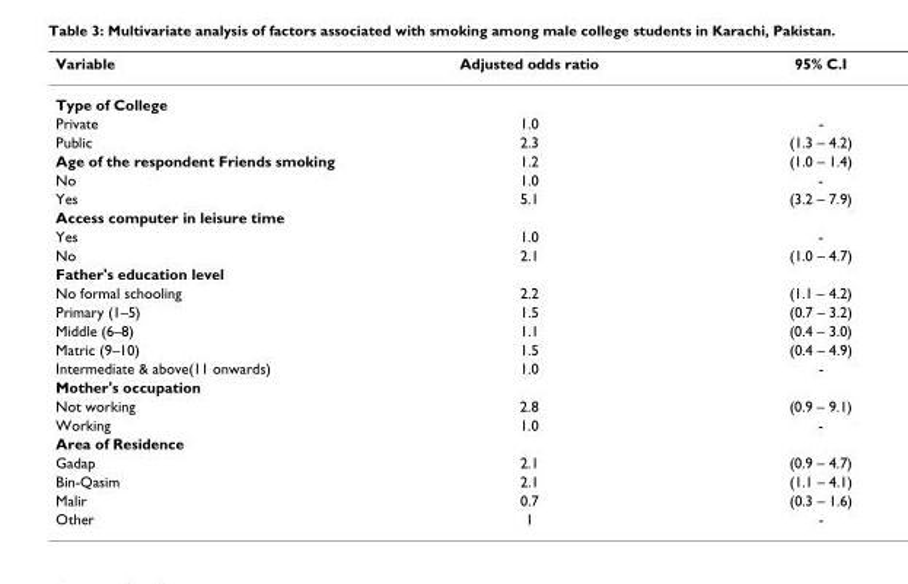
<table><thead><tr><td>Variable</td><td>Adjusted odds ratio</td><td>95% C.I</td></tr></thead><tbody><tr><td colspan="3">Type of College</td></tr><tr><td>Private</td><td>1.0</td><td>-</td></tr><tr><td>Public</td><td>2.3</td><td>(1.3 – 4.2)</td></tr><tr><td>Age of the respondent Friends smoking</td><td>1.2</td><td>(1.0 – 1.4)</td></tr><tr><td>No</td><td>1.0</td><td>-</td></tr><tr><td>Yes</td><td>5.1</td><td>(3.2 – 7.9)</td></tr><tr><td colspan="3">Access computer in leisure time</td></tr><tr><td>Yes</td><td>1.0</td><td>-</td></tr><tr><td>No</td><td>2.1</td><td>(1.0 – 4.7)</td></tr><tr><td colspan="3">Father&#x27;s education level</td></tr><tr><td>No formal schooling</td><td>2.2</td><td>(1.1 – 4.2)</td></tr><tr><td>Primary (1–5)</td><td>1.5</td><td>(0.7 – 3.2)</td></tr><tr><td>Middle (6–8)</td><td>1.1</td><td>(0.4 – 3.0)</td></tr><tr><td>Matric (9–10)</td><td>1.5</td><td>(0.4 – 4.9)</td></tr><tr><td>Intermediate &amp; above(11 onwards)</td><td>1.0</td><td>-</td></tr><tr><td colspan="3">Mother&#x27;s occupation</td></tr><tr><td>Not working</td><td>2.8</td><td>(0.9 – 9.1)</td></tr><tr><td>Working</td><td>1.0</td><td>-</td></tr><tr><td colspan="3">Area of Residence</td></tr><tr><td>Gadap</td><td>2.1</td><td>(0.9 – 4.7)</td></tr><tr><td>Bin-Qasim</td><td>2.1</td><td>(1.1 – 4.1)</td></tr><tr><td>Malir</td><td>0.7</td><td>(0.3 – 1.6)</td></tr><tr><td>Other</td><td>1</td><td>-</td></tr></tbody></table>